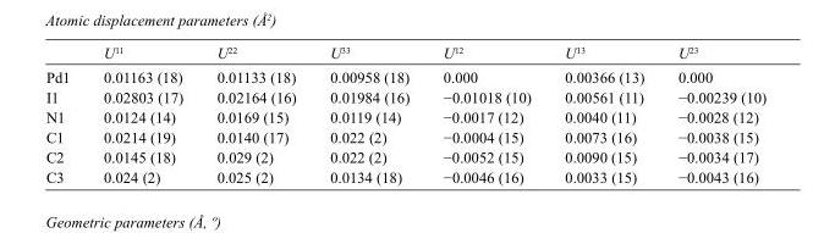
<table><thead><tr><td></td><td>U<sup>11</sup></td><td>U<sup>22</sup></td><td>U<sup>33</sup></td><td>U<sup>12</sup></td><td>U<sup>13</sup></td><td>U<sup>23</sup></td></tr></thead><tbody><tr><td>Pd1</td><td>0.01163 (18)</td><td>0.01133 (18)</td><td>0.00958 (18)</td><td>0.000</td><td>0.00366 (13)</td><td>0.000</td></tr><tr><td>I1</td><td>0.02803 (17)</td><td>0.02164 (16)</td><td>0.01984 (16)</td><td>−0.01018 (10)</td><td>0.00561 (11)</td><td>−0.00239 (10)</td></tr><tr><td>N1</td><td>0.0124 (14)</td><td>0.0169 (15)</td><td>0.0119 (14)</td><td>−0.0017 (12)</td><td>0.0040 (11)</td><td>−0.0028 (12)</td></tr><tr><td>C1</td><td>0.0214 (19)</td><td>0.0140 (17)</td><td>0.022 (2)</td><td>−0.0004 (15)</td><td>0.0073 (16)</td><td>−0.0038 (15)</td></tr><tr><td>C2</td><td>0.0145 (18)</td><td>0.029 (2)</td><td>0.022 (2)</td><td>−0.0052 (15)</td><td>0.0090 (15)</td><td>−0.0034 (17)</td></tr><tr><td>C3</td><td>0.024 (2)</td><td>0.025 (2)</td><td>0.0134 (18)</td><td>−0.0046 (16)</td><td>0.0033 (15)</td><td>−0.0043 (16)</td></tr></tbody></table>